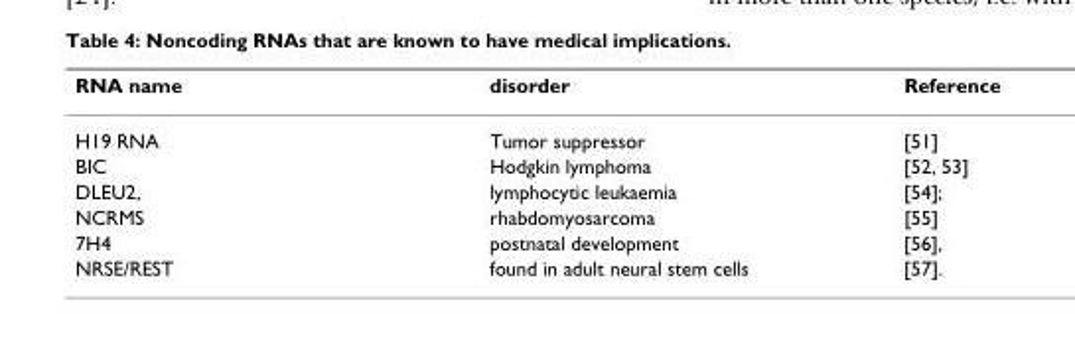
<table><thead><tr><td>RNA name</td><td>disorder</td><td>Reference</td></tr></thead><tbody><tr><td>H19 RNA</td><td>Tumor suppressor</td><td>[51]</td></tr><tr><td>BIC</td><td>Hodgkin lymphoma</td><td>[52, 53]</td></tr><tr><td>DLEU2,</td><td>lymphocytic leukaemia</td><td>[54];</td></tr><tr><td>NCRMS</td><td>rhabdomyosarcoma</td><td>[55]</td></tr><tr><td>7H4</td><td>postnatal development</td><td>[56],</td></tr><tr><td>NRSE/REST</td><td>found in adult neural stem cells</td><td>[57].</td></tr></tbody></table>